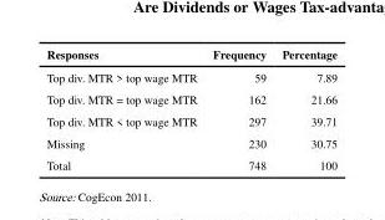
<table><thead><tr><td>Responses</td><td>Frequency</td><td>Percentage</td></tr></thead><tbody><tr><td>Top div. MTR &gt; top wage MTR</td><td>59</td><td>7.89</td></tr><tr><td>Top div. MTR = top wage MTR</td><td>162</td><td>21.66</td></tr><tr><td>Top div. MTR &lt; top wage MTR</td><td>297</td><td>39.71</td></tr><tr><td>Missing</td><td>230</td><td>30.75</td></tr><tr><td>Total</td><td>748</td><td>100</td></tr></tbody></table>